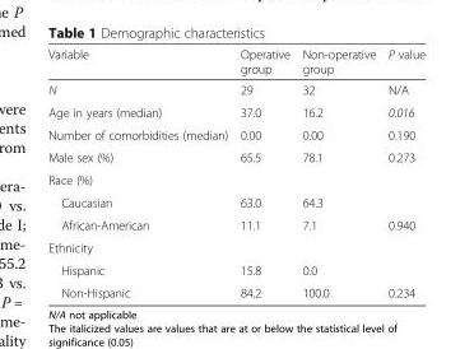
<table><thead><tr><td>Variable</td><td>Operative group</td><td>Non-operative group</td><td>P value</td></tr></thead><tbody><tr><td>N</td><td>29</td><td>32</td><td>N/A</td></tr><tr><td>Age in years (median)</td><td>37.0</td><td>16.2</td><td>0.016</td></tr><tr><td>Number of comorbidities (median)</td><td>0.00</td><td>0.00</td><td>0.190</td></tr><tr><td>Male sex (%)</td><td>65.5</td><td>78.1</td><td>0.273</td></tr><tr><td colspan="4">Race (%)</td></tr><tr><td>Caucasian</td><td>63.0</td><td>64.3</td><td></td></tr><tr><td>African-American</td><td>11.1</td><td>7.1</td><td>0.940</td></tr><tr><td colspan="4">Ethnicity</td></tr><tr><td>Hispanic</td><td>15.8</td><td>0.0</td><td></td></tr><tr><td>Non-Hispanic</td><td>84.2</td><td>100.0</td><td>0.234</td></tr></tbody></table>